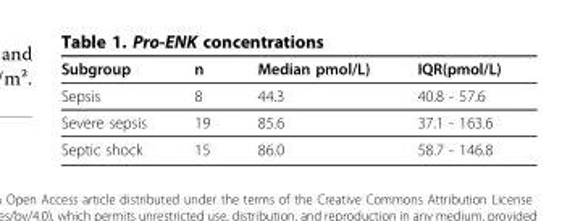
<table><thead><tr><td>Subgroup</td><td>n</td><td>Median pmol/L)</td><td>IQR(pmol/L)</td></tr></thead><tbody><tr><td>Sepsis</td><td>8</td><td>44.3</td><td>40.8 - 57.6</td></tr><tr><td>Severe sepsis</td><td>19</td><td>85.6</td><td>37.1 - 163.6</td></tr><tr><td>Septic shock</td><td>15</td><td>86.0</td><td>58.7 - 146.8</td></tr></tbody></table>